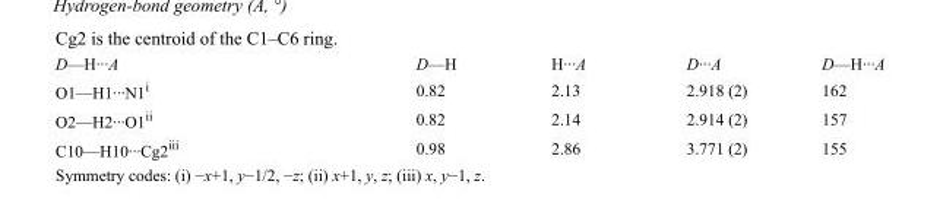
<table><tbody><tr><td>D—H···A</td><td>D—H</td><td>H···A</td><td>D···A</td><td>D—H···A</td></tr><tr><td>O1—H1···N1<sup>i</sup></td><td>0.82</td><td>2.13</td><td>2.918 (2)</td><td>162</td></tr><tr><td>O2—H2···O1<sup>ii</sup></td><td>0.82</td><td>2.14</td><td>2.914 (2)</td><td>157</td></tr><tr><td>C10—H10···Cg2<sup>iii</sup></td><td>0.98</td><td>2.86</td><td>3.771 (2)</td><td>155</td></tr></tbody></table>